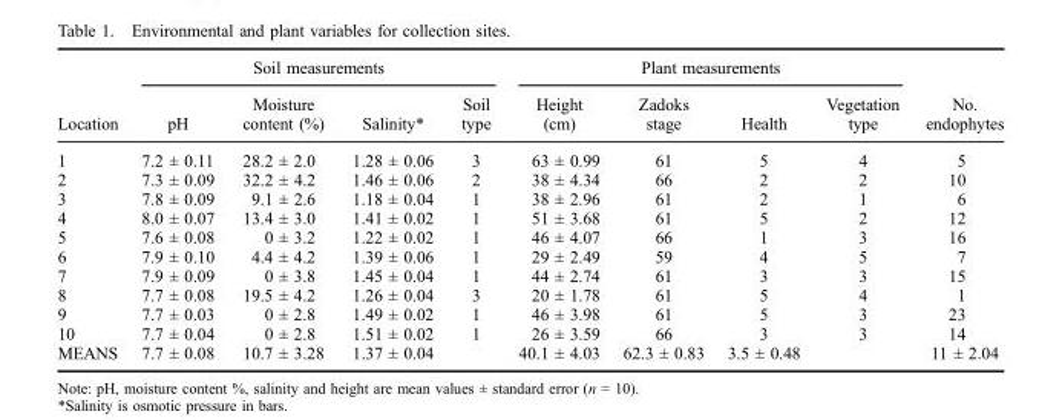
<table><thead><tr><td rowspan="2">Location</td><td colspan="4">Soil measurements</td><td colspan="4">Plant measurements</td><td rowspan="2">No. endophytes</td></tr><tr><td>pH</td><td>Moisture content (%)</td><td>Salinity*</td><td>Soil type</td><td>Height (cm)</td><td>Zadoks stage</td><td>Health</td><td>Vegetation type</td></tr></thead><tbody><tr><td>1</td><td>7.2 ± 0.11</td><td>28.2 ± 2.0</td><td>1.28 ± 0.06</td><td>3</td><td>63 ± 0.99</td><td>61</td><td>5</td><td>4</td><td>5</td></tr><tr><td>2</td><td>7.3 ± 0.09</td><td>32.2 ± 4.2</td><td>1.46 ± 0.06</td><td>2</td><td>38 ± 4.34</td><td>66</td><td>2</td><td>2</td><td>10</td></tr><tr><td>3</td><td>7.8 ± 0.09</td><td>9.1 ± 2.6</td><td>1.18 ± 0.04</td><td>1</td><td>38 ± 2.96</td><td>61</td><td>2</td><td>1</td><td>6</td></tr><tr><td>4</td><td>8.0 ± 0.07</td><td>13.4 ± 3.0</td><td>1.41 ± 0.02</td><td>1</td><td>51 ± 3.68</td><td>61</td><td>5</td><td>2</td><td>12</td></tr><tr><td>5</td><td>7.6 ± 0.08</td><td>0 ± 3.2</td><td>1.22 ± 0.02</td><td>1</td><td>46 ± 4.07</td><td>66</td><td>1</td><td>3</td><td>16</td></tr><tr><td>6</td><td>7.9 ± 0.10</td><td>4.4 ± 4.2</td><td>1.39 ± 0.06</td><td>1</td><td>29 ± 2.49</td><td>59</td><td>4</td><td>5</td><td>7</td></tr><tr><td>7</td><td>7.9 ± 0.09</td><td>0 ± 3.8</td><td>1.45 ± 0.04</td><td>1</td><td>44 ± 2.74</td><td>61</td><td>3</td><td>3</td><td>15</td></tr><tr><td>8</td><td>7.7 ± 0.08</td><td>19.5 ± 4.2</td><td>1.26 ± 0.04</td><td>3</td><td>20 ± 1.78</td><td>61</td><td>5</td><td>4</td><td>1</td></tr><tr><td>9</td><td>7.7 ± 0.03</td><td>0 ± 2.8</td><td>1.49 ± 0.02</td><td>1</td><td>46 ± 3.98</td><td>61</td><td>5</td><td>3</td><td>23</td></tr><tr><td>10</td><td>7.7 ± 0.04</td><td>0 ± 2.8</td><td>1.51 ± 0.02</td><td>1</td><td>26 ± 3.59</td><td>66</td><td>3</td><td>3</td><td>14</td></tr><tr><td>MEANS</td><td>7.7 ± 0.08</td><td>10.7 ± 3.28</td><td>1.37 ± 0.04</td><td></td><td>40.1 ± 4.03</td><td>62.3 ± 0.83</td><td>3.5 ± 0.48</td><td></td><td>11 ± 2.04</td></tr></tbody></table>